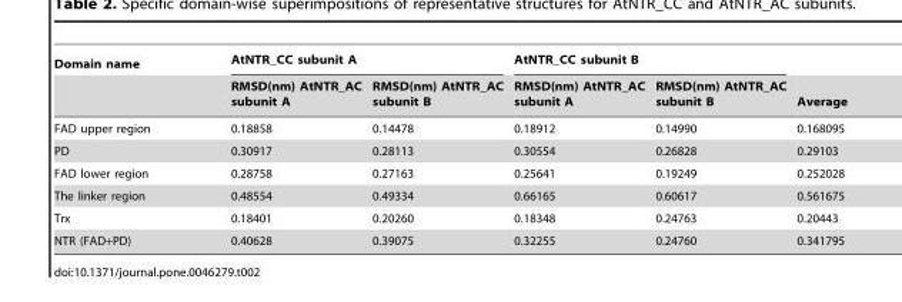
<table><thead><tr><td rowspan="2">Domain name</td><td colspan="2">AtNTR_CC subunit A</td><td colspan="2">AtNTR_CC subunit B</td><td rowspan="2">Average</td></tr><tr><td>RMSD(nm) AtNTR_AC subunit A</td><td>RMSD(nm) AtNTR_AC subunit B</td><td>RMSD(nm) AtNTR_AC subunit A</td><td>RMSD(nm) AtNTR_AC subunit B</td></tr></thead><tbody><tr><td>FAD upper region</td><td>0.18858</td><td>0.14478</td><td>0.18912</td><td>0.14990</td><td>0.168095</td></tr><tr><td>PD</td><td>0.30917</td><td>0.28113</td><td>0.30554</td><td>0.26828</td><td>0.29103</td></tr><tr><td>FAD lower region</td><td>0.28758</td><td>0.27163</td><td>0.25641</td><td>0.19249</td><td>0.252028</td></tr><tr><td>The linker region</td><td>0.48554</td><td>0.49334</td><td>0.66165</td><td>0.60617</td><td>0.561675</td></tr><tr><td>Trx</td><td>0.18401</td><td>0.20260</td><td>0.18348</td><td>0.24763</td><td>0.20443</td></tr><tr><td>NTR (FAD+PD)</td><td>0.40628</td><td>0.39075</td><td>0.32255</td><td>0.24760</td><td>0.341795</td></tr></tbody></table>